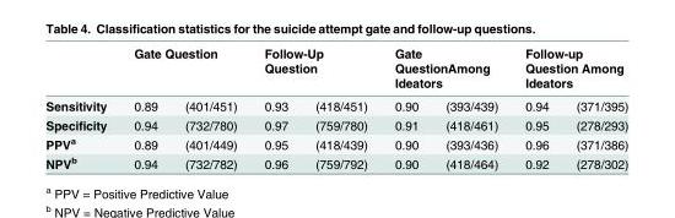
<table><thead><tr><td rowspan="2">Sensitivity</td><td colspan="2">Gate Question</td><td colspan="2">Follow-Up Question</td><td colspan="2">Gate QuestionAmong Ideators</td><td colspan="2">Follow-up Question Among Ideators</td></tr><tr><td>0.89</td><td>(401/451)</td><td>0.93</td><td>(418/451)</td><td>0.90</td><td>(393/439)</td><td>0.94</td><td>(371/395)</td></tr></thead><tbody><tr><td>Specificity</td><td>0.94</td><td>(732/780)</td><td>0.97</td><td>(759/780)</td><td>0.91</td><td>(418/461)</td><td>0.95</td><td>(278/293)</td></tr><tr><td>PPV<sup>a</sup></td><td>0.89</td><td>(401/449)</td><td>0.95</td><td>(418/439)</td><td>0.90</td><td>(393/436)</td><td>0.96</td><td>(371/386)</td></tr><tr><td>NPV<sup>b</sup></td><td>0.94</td><td>(732/782)</td><td>0.96</td><td>(759/792)</td><td>0.90</td><td>(418/464)</td><td>0.92</td><td>(278/302)</td></tr></tbody></table>